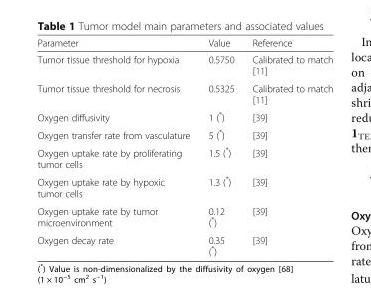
<table><thead><tr><td>Parameter</td><td>Value</td><td>Reference</td></tr></thead><tbody><tr><td>Tumor tissue threshold for hypoxia</td><td>0.5750</td><td>Calibrated to match [11]</td></tr><tr><td>Tumor tissue threshold for necrosis</td><td>0.5325</td><td>Calibrated to match [11]</td></tr><tr><td>Oxygen diffusivity</td><td>1 (*)</td><td>[39]</td></tr><tr><td>Oxygen transfer rate from vasculature</td><td>5 (*)</td><td>[39]</td></tr><tr><td>Oxygen uptake rate by proliferating tumor cells</td><td>1.5 (*)</td><td>[39]</td></tr><tr><td>Oxygen uptake rate by hypoxic tumor cells</td><td>1.3 (*)</td><td>[39]</td></tr><tr><td>Oxygen uptake rate by tumor microenvironment</td><td>0.12 (*)</td><td>[39]</td></tr><tr><td>Oxygen decay rate</td><td>0.35 (*)</td><td>[39]</td></tr></tbody></table>